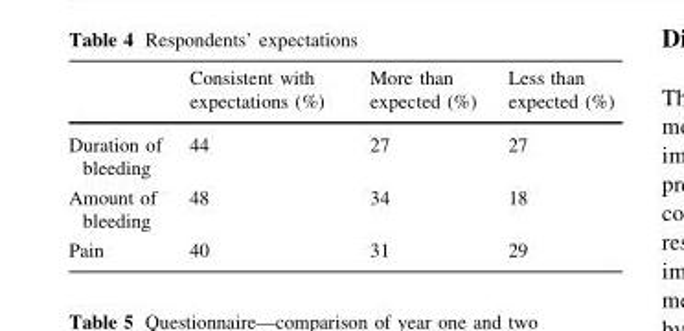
<table><thead><tr><td></td><td>Consistent with expectations (%)</td><td>More than expected (%)</td><td>Less than expected (%)</td></tr></thead><tbody><tr><td>Duration of bleeding</td><td>44</td><td>27</td><td>27</td></tr><tr><td>Amount of bleeding</td><td>48</td><td>34</td><td>18</td></tr><tr><td>Pain</td><td>40</td><td>31</td><td>29</td></tr></tbody></table>